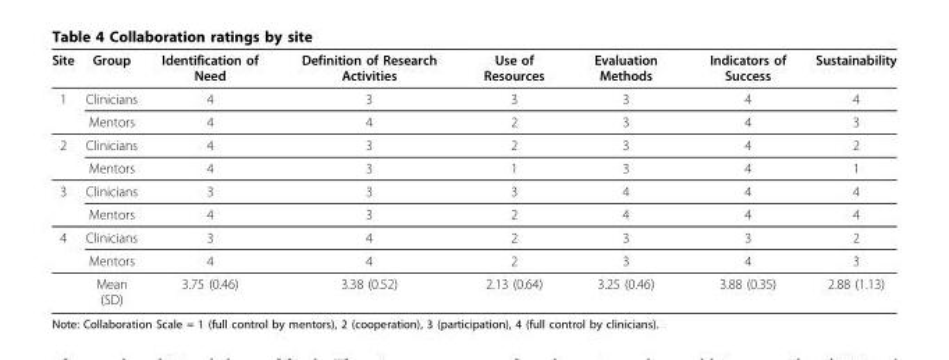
<table><thead><tr><td>Site</td><td>Group</td><td>Identification of Need</td><td>Definition of Research Activities</td><td>Use of Resources</td><td>Evaluation Methods</td><td>Indicators of Success</td><td>Sustainability</td></tr></thead><tbody><tr><td rowspan="2">1</td><td>Clinicians</td><td>4</td><td>3</td><td>3</td><td>3</td><td>4</td><td>4</td></tr><tr><td>Mentors</td><td>4</td><td>4</td><td>2</td><td>3</td><td>4</td><td>3</td></tr><tr><td rowspan="2">2</td><td>Clinicians</td><td>4</td><td>3</td><td>2</td><td>3</td><td>4</td><td>2</td></tr><tr><td>Mentors</td><td>4</td><td>3</td><td>1</td><td>3</td><td>4</td><td>1</td></tr><tr><td rowspan="2">3</td><td>Clinicians</td><td>3</td><td>3</td><td>3</td><td>4</td><td>4</td><td>4</td></tr><tr><td>Mentors</td><td>4</td><td>3</td><td>2</td><td>4</td><td>4</td><td>4</td></tr><tr><td rowspan="3">4</td><td>Clinicians</td><td>3</td><td>4</td><td>2</td><td>3</td><td>3</td><td>2</td></tr><tr><td>Mentors</td><td>4</td><td>4</td><td>2</td><td>3</td><td>4</td><td>3</td></tr><tr><td>Mean (SD)</td><td>3.75 (0.46)</td><td>3.38 (0.52)</td><td>2.13 (0.64)</td><td>3.25 (0.46)</td><td>3.88 (0.35)</td><td>2.88 (1.13)</td></tr></tbody></table>